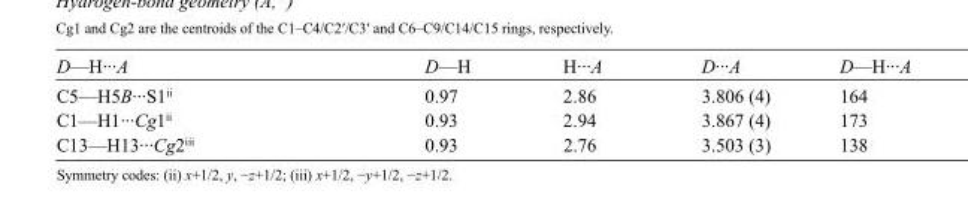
<table><tbody><tr><td>D—H···A</td><td>D—H</td><td>H···A</td><td>D···A</td><td>D—H···A</td></tr><tr><td>C5—H5B···S1<sup>ii</sup></td><td>0.97</td><td>2.86</td><td>3.806 (4)</td><td>164</td></tr><tr><td>C1—H1···Cg1<sup>ii</sup></td><td>0.93</td><td>2.94</td><td>3.867 (4)</td><td>173</td></tr><tr><td>C13—H13···Cg2<sup>iii</sup></td><td>0.93</td><td>2.76</td><td>3.503 (3)</td><td>138</td></tr></tbody></table>